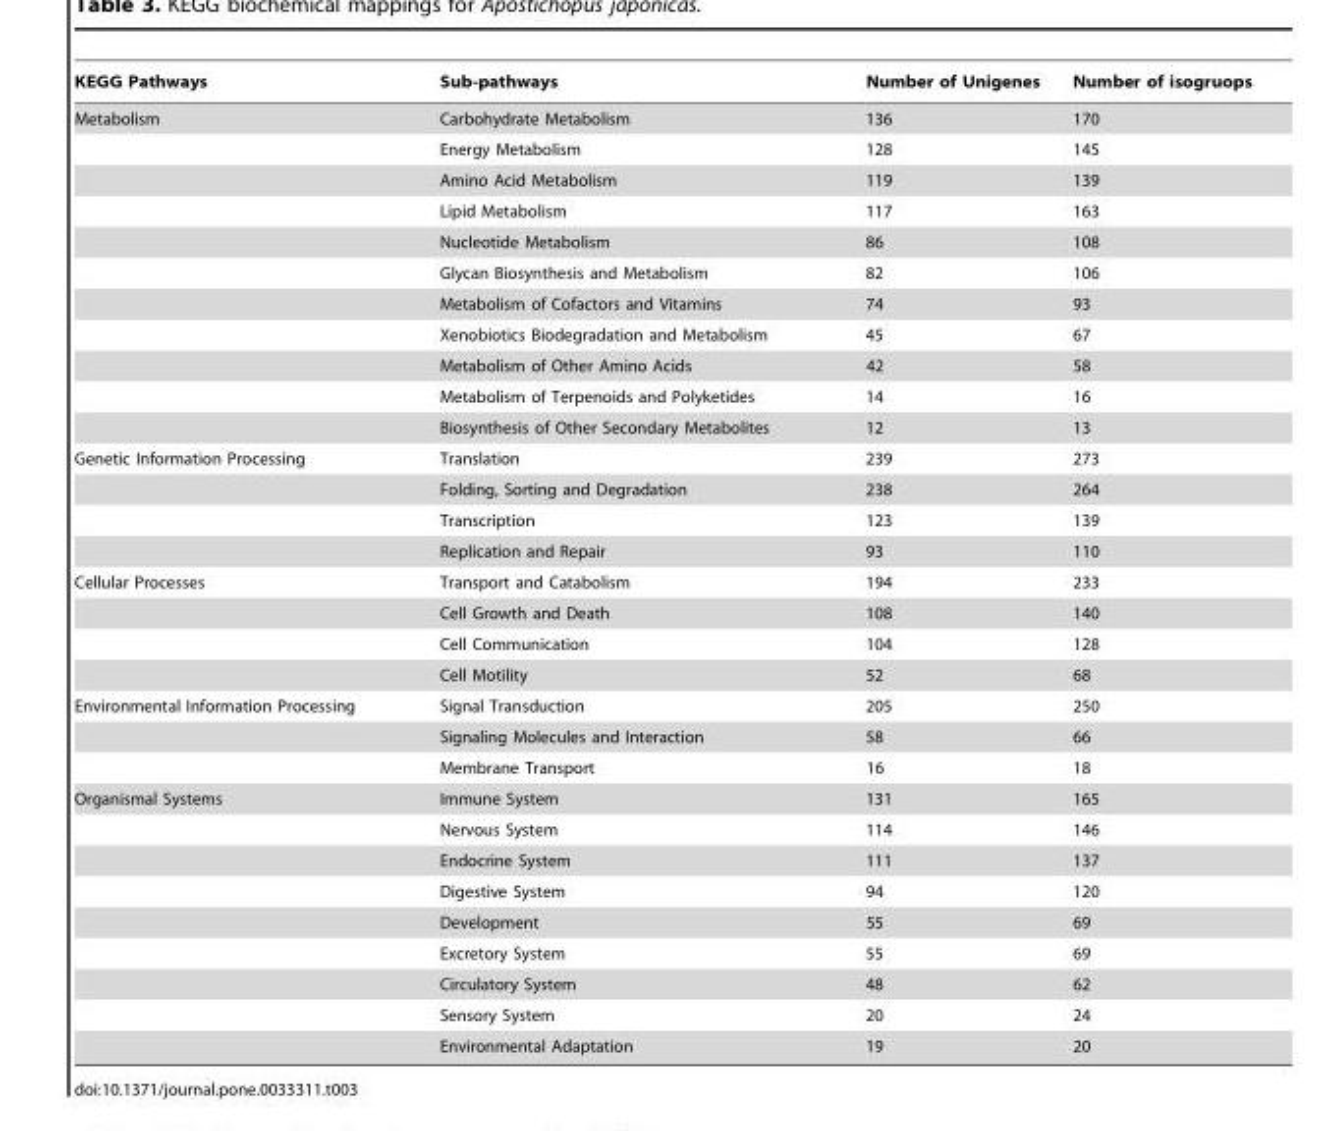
<table><thead><tr><td>KEGG Pathways</td><td>Sub-pathways</td><td>Number of Unigenes</td><td>Number of isogruops</td></tr></thead><tbody><tr><td rowspan="11">Metabolism</td><td>Carbohydrate Metabolism</td><td>136</td><td>170</td></tr><tr><td>Energy Metabolism</td><td>128</td><td>145</td></tr><tr><td>Amino Acid Metabolism</td><td>119</td><td>139</td></tr><tr><td>Lipid Metabolism</td><td>117</td><td>163</td></tr><tr><td>Nucleotide Metabolism</td><td>86</td><td>108</td></tr><tr><td>Glycan Biosynthesis and Metabolism</td><td>82</td><td>106</td></tr><tr><td>Metabolism of Cofactors and Vitamins</td><td>74</td><td>93</td></tr><tr><td>Xenobiotics Biodegradation and Metabolism</td><td>45</td><td>67</td></tr><tr><td>Metabolism of Other Amino Acids</td><td>42</td><td>58</td></tr><tr><td>Metabolism of Terpenoids and Polyketides</td><td>14</td><td>16</td></tr><tr><td>Biosynthesis of Other Secondary Metabolites</td><td>12</td><td>13</td></tr><tr><td rowspan="4">Genetic Information Processing</td><td>Translation</td><td>239</td><td>273</td></tr><tr><td>Folding, Sorting and Degradation</td><td>238</td><td>264</td></tr><tr><td>Transcription</td><td>123</td><td>139</td></tr><tr><td>Replication and Repair</td><td>93</td><td>110</td></tr><tr><td rowspan="4">Cellular Processes</td><td>Transport and Catabolism</td><td>194</td><td>233</td></tr><tr><td>Cell Growth and Death</td><td>108</td><td>140</td></tr><tr><td>Cell Communication</td><td>104</td><td>128</td></tr><tr><td>Cell Motility</td><td>52</td><td>68</td></tr><tr><td rowspan="3">Environmental Information Processing</td><td>Signal Transduction</td><td>205</td><td>250</td></tr><tr><td>Signaling Molecules and Interaction</td><td>58</td><td>66</td></tr><tr><td>Membrane Transport</td><td>16</td><td>18</td></tr><tr><td rowspan="9">Organismal Systems</td><td>Immune System</td><td>131</td><td>165</td></tr><tr><td>Nervous System</td><td>114</td><td>146</td></tr><tr><td>Endocrine System</td><td>111</td><td>137</td></tr><tr><td>Digestive System</td><td>94</td><td>120</td></tr><tr><td>Development</td><td>55</td><td>69</td></tr><tr><td>Excretory System</td><td>55</td><td>69</td></tr><tr><td>Circulatory System</td><td>48</td><td>62</td></tr><tr><td>Sensory System</td><td>20</td><td>24</td></tr><tr><td>Environmental Adaptation</td><td>19</td><td>20</td></tr></tbody></table>